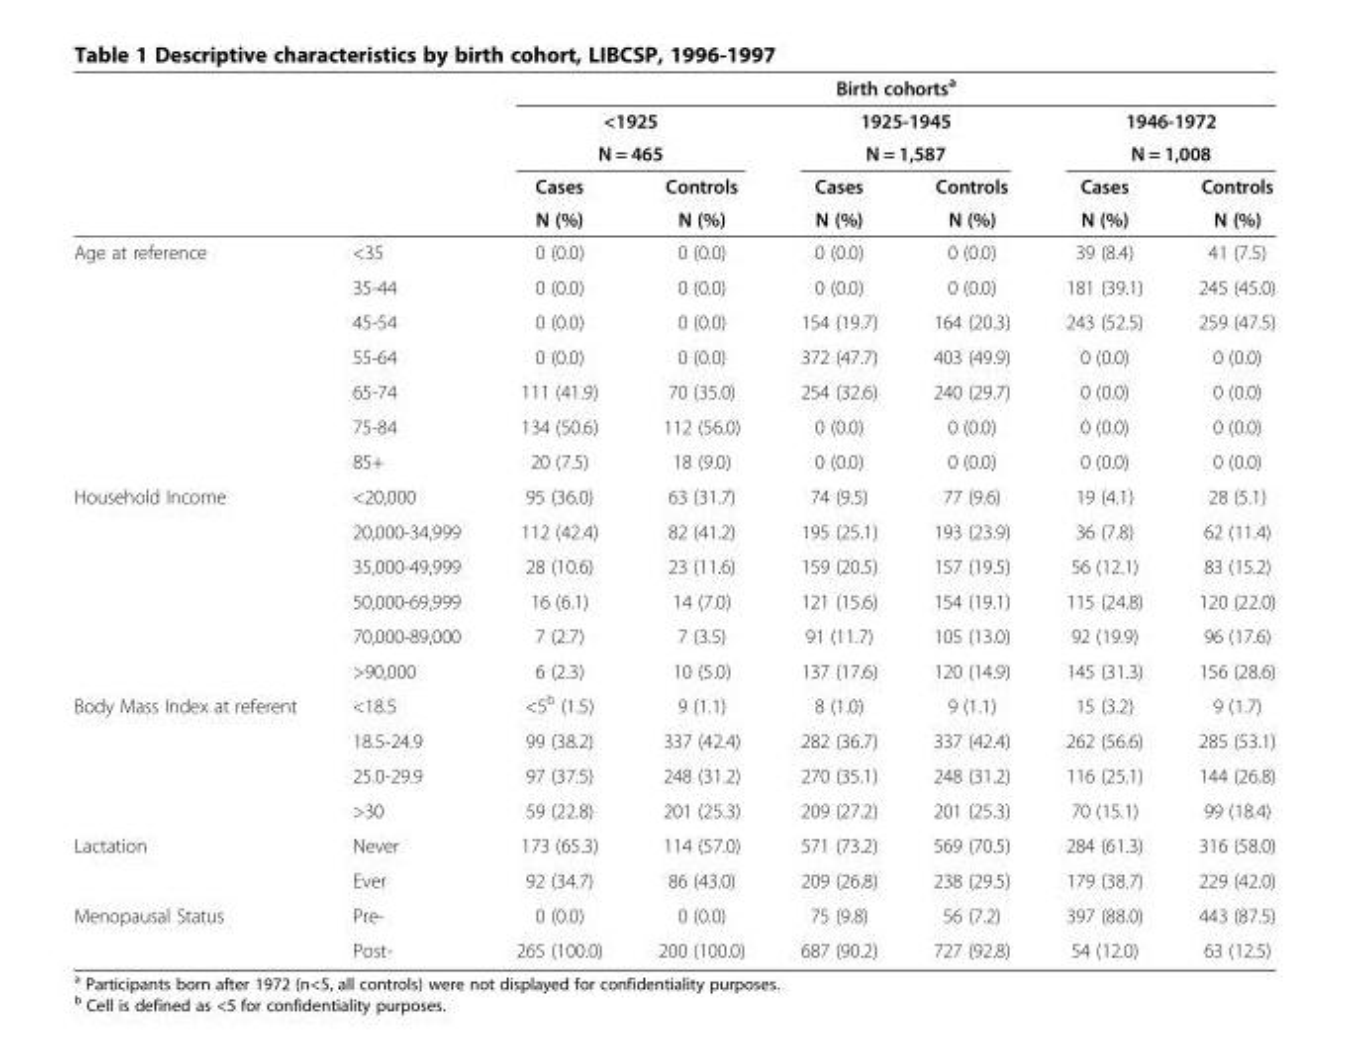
<table><thead><tr><td rowspan="5"></td><td rowspan="5"></td><td colspan="6">Birth cohorts<sup>a</sup></td></tr><tr><td rowspan="2" colspan="2">&lt;1925 N = 465</td><td rowspan="2" colspan="2">1925-1945 N = 1,587</td><td rowspan="2" colspan="2">1946-1972 N = 1,008</td></tr><tr></tr><tr><td rowspan="2">Cases N (%)</td><td rowspan="2">Controls N (%)</td><td rowspan="2">Cases N (%)</td><td rowspan="2">Controls N (%)</td><td rowspan="2">Cases N (%)</td><td rowspan="2">Controls N (%)</td></tr><tr></tr></thead><tbody><tr><td rowspan="7">Age at reference</td><td>&lt;35</td><td>0 (0.0)</td><td>0 (0.0)</td><td>0 (0.0)</td><td>0 (0.0)</td><td>39 (8.4)</td><td>41 (7.5)</td></tr><tr><td>35-44</td><td>0 (0.0)</td><td>0 (0.0)</td><td>0 (0.0)</td><td>0 (0.0)</td><td>181 (39.1)</td><td>245 (45.0)</td></tr><tr><td>45-54</td><td>0 (0.0)</td><td>0 (0.0)</td><td>154 (19.7)</td><td>164 (20.3)</td><td>243 (52.5)</td><td>259 (47.5)</td></tr><tr><td>55-64</td><td>0 (0.0)</td><td>0 (0.0)</td><td>372 (47.7)</td><td>403 (49.9)</td><td>0 (0.0)</td><td>0 (0.0)</td></tr><tr><td>65-74</td><td>111 (41.9)</td><td>70 (35.0)</td><td>254 (32.6)</td><td>240 (29.7)</td><td>0 (0.0)</td><td>0 (0.0)</td></tr><tr><td>75-84</td><td>134 (50.6)</td><td>112 (56.0)</td><td>0 (0.0)</td><td>0 (0.0)</td><td>0 (0.0)</td><td>0 (0.0)</td></tr><tr><td>85+</td><td>20 (7.5)</td><td>18 (9.0)</td><td>0 (0.0)</td><td>0 (0.0)</td><td>0 (0.0)</td><td>0 (0.0)</td></tr><tr><td rowspan="6">Household Income</td><td>&lt;20,000</td><td>95 (36.0)</td><td>63 (31.7)</td><td>74 (9.5)</td><td>77 (9.6)</td><td>19 (4.1)</td><td>28 (5.1)</td></tr><tr><td>20,000-34,999</td><td>112 (42.4)</td><td>82 (41.2)</td><td>195 (25.1)</td><td>193 (23.9)</td><td>36 (7.8)</td><td>62 (11.4)</td></tr><tr><td>35,000-49,999</td><td>28 (10.6)</td><td>23 (11.6)</td><td>159 (20.5)</td><td>157 (19.5)</td><td>56 (12.1)</td><td>83 (15.2)</td></tr><tr><td>50,000-69,999</td><td>16 (6.1)</td><td>14 (7.0)</td><td>121 (15.6)</td><td>154 (19.1)</td><td>115 (24.8)</td><td>120 (22.0)</td></tr><tr><td>70,000-89,000</td><td>7 (2.7)</td><td>7 (3.5)</td><td>91 (11.7)</td><td>105 (13.0)</td><td>92 (19.9)</td><td>96 (17.6)</td></tr><tr><td>&gt;90,000</td><td>6 (2.3)</td><td>10 (5.0)</td><td>137 (17.6)</td><td>120 (14.9)</td><td>145 (31.3)</td><td>156 (28.6)</td></tr><tr><td rowspan="4">Body Mass Index at referent</td><td>&lt;18.5</td><td>&lt;5<sup>b</sup> (1.5)</td><td>9 (1.1)</td><td>8 (1.0)</td><td>9 (1.1)</td><td>15 (3.2)</td><td>9 (1.7)</td></tr><tr><td>18.5-24.9</td><td>99 (38.2)</td><td>337 (42.4)</td><td>282 (36.7)</td><td>337 (42.4)</td><td>262 (56.6)</td><td>285 (53.1)</td></tr><tr><td>25.0-29.9</td><td>97 (37.5)</td><td>248 (31.2)</td><td>270 (35.1)</td><td>248 (31.2)</td><td>116 (25.1)</td><td>144 (26.8)</td></tr><tr><td>&gt;30</td><td>59 (22.8)</td><td>201 (25.3)</td><td>209 (27.2)</td><td>201 (25.3)</td><td>70 (15.1)</td><td>99 (18.4)</td></tr><tr><td rowspan="2">Lactation</td><td>Never</td><td>173 (65.3)</td><td>114 (57.0)</td><td>571 (73.2)</td><td>569 (70.5)</td><td>284 (61.3)</td><td>316 (58.0)</td></tr><tr><td>Ever</td><td>92 (34.7)</td><td>86 (43.0)</td><td>209 (26.8)</td><td>238 (29.5)</td><td>179 (38.7)</td><td>229 (42.0)</td></tr><tr><td rowspan="2">Menopausal Status</td><td>Pre-</td><td>0 (0.0)</td><td>0 (0.0)</td><td>75 (9.8)</td><td>56 (7.2)</td><td>397 (88.0)</td><td>443 (87.5)</td></tr><tr><td>Post-</td><td>265 (100.0)</td><td>200 (100.0)</td><td>687 (90.2)</td><td>727 (92.8)</td><td>54 (12.0)</td><td>63 (12.5)</td></tr></tbody></table>